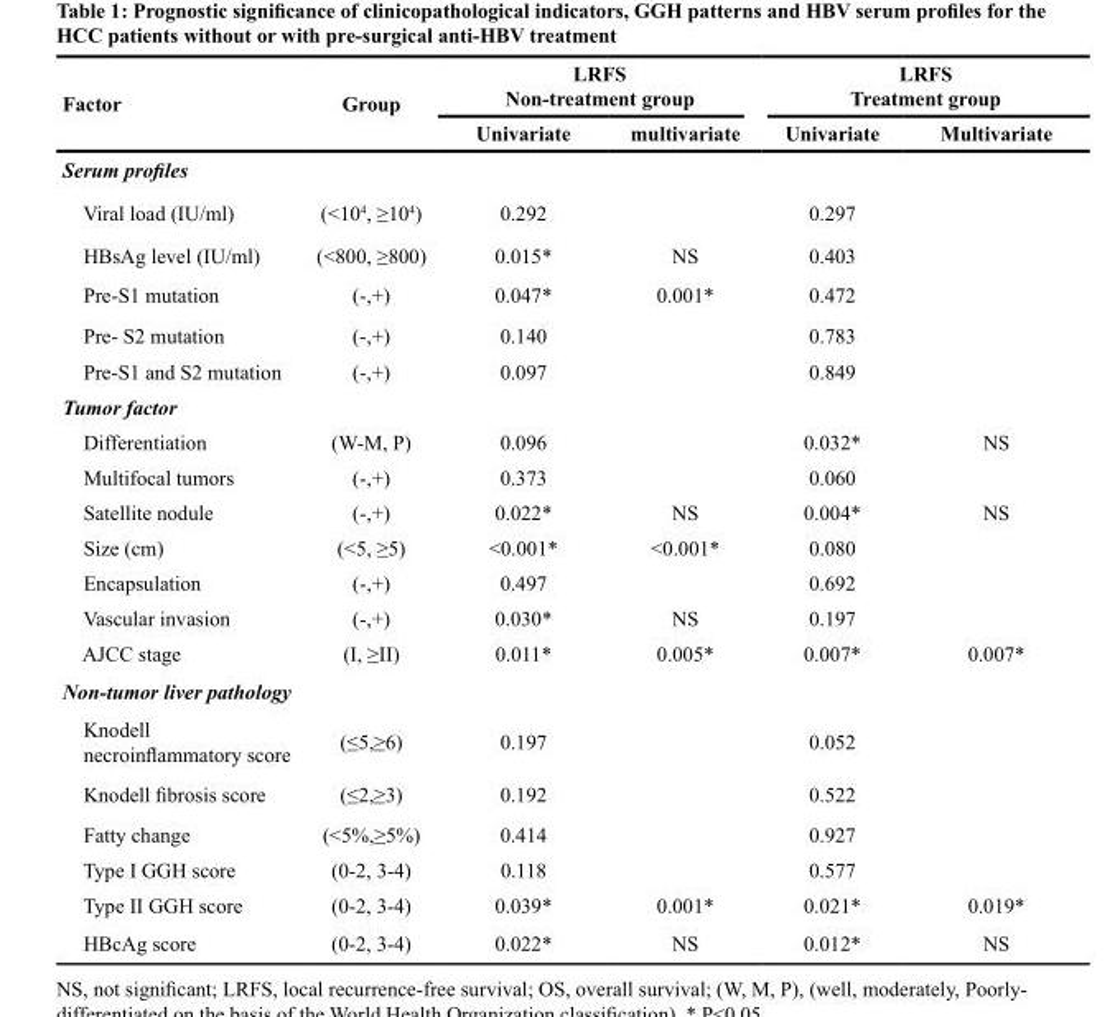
<table><thead><tr><td rowspan="2">Factor</td><td rowspan="2">Group</td><td colspan="2">LRFS Non-treatment group</td><td colspan="2">LRFS Treatment group</td></tr><tr><td>Univariate</td><td>multivariate</td><td>Univariate</td><td>Multivariate</td></tr></thead><tbody><tr><td colspan="6">Serum profiles</td></tr><tr><td>Viral load (IU/ml)</td><td>(&lt;10<sup>4</sup>, ≥10<sup>4</sup>)</td><td>0.292</td><td></td><td>0.297</td><td></td></tr><tr><td>HBsAg level (IU/ml)</td><td>(&lt;800, ≥800)</td><td>0.015*</td><td>NS</td><td>0.403</td><td></td></tr><tr><td>Pre-S1 mutation</td><td>(-,+)</td><td>0.047*</td><td>0.001*</td><td>0.472</td><td></td></tr><tr><td>Pre- S2 mutation</td><td>(-,+)</td><td>0.140</td><td></td><td>0.783</td><td></td></tr><tr><td>Pre-S1 and S2 mutation</td><td>(-,+)</td><td>0.097</td><td></td><td>0.849</td><td></td></tr><tr><td colspan="6">Tumor factor</td></tr><tr><td>Differentiation</td><td>(W-M, P)</td><td>0.096</td><td></td><td>0.032*</td><td>NS</td></tr><tr><td>Multifocal tumors</td><td>(-,+)</td><td>0.373</td><td></td><td>0.060</td><td></td></tr><tr><td>Satellite nodule</td><td>(-,+)</td><td>0.022*</td><td>NS</td><td>0.004*</td><td>NS</td></tr><tr><td>Size (cm)</td><td>(&lt;5, ≥5)</td><td>&lt;0.001*</td><td>&lt;0.001*</td><td>0.080</td><td></td></tr><tr><td>Encapsulation</td><td>(-,+)</td><td>0.497</td><td></td><td>0.692</td><td></td></tr><tr><td>Vascular invasion</td><td>(-,+)</td><td>0.030*</td><td>NS</td><td>0.197</td><td></td></tr><tr><td>AJCC stage</td><td>(I, ≥II)</td><td>0.011*</td><td>0.005*</td><td>0.007*</td><td>0.007*</td></tr><tr><td colspan="6">Non-tumor liver pathology</td></tr><tr><td>Knodell necroinflammatory score</td><td>(≤5,≥6)</td><td>0.197</td><td></td><td>0.052</td><td></td></tr><tr><td>Knodell fibrosis score</td><td>(≤2,≥3)</td><td>0.192</td><td></td><td>0.522</td><td></td></tr><tr><td>Fatty change</td><td>(&lt;5%,≥5%)</td><td>0.414</td><td></td><td>0.927</td><td></td></tr><tr><td>Type I GGH score</td><td>(0-2, 3-4)</td><td>0.118</td><td></td><td>0.577</td><td></td></tr><tr><td>Type II GGH score</td><td>(0-2, 3-4)</td><td>0.039*</td><td>0.001*</td><td>0.021*</td><td>0.019*</td></tr><tr><td>HBcAg score</td><td>(0-2, 3-4)</td><td>0.022*</td><td>NS</td><td>0.012*</td><td>NS</td></tr></tbody></table>